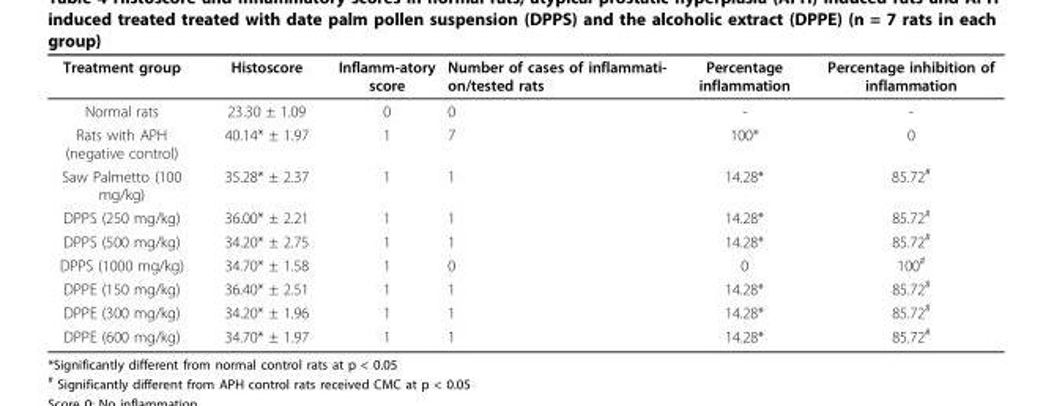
<table><thead><tr><td>Treatment group</td><td>Histoscore</td><td>Inflamm-atory score</td><td>Number of cases of inflammati- on/tested rats</td><td>Percentage inflammation</td><td>Percentage inhibition of inflammation</td></tr></thead><tbody><tr><td>Normal rats</td><td>23.30 ± 1.09</td><td>0</td><td>0</td><td>-</td><td>-</td></tr><tr><td>Rats with APH (negative control)</td><td>40.14* ± 1.97</td><td>1</td><td>7</td><td>100*</td><td>0</td></tr><tr><td>Saw Palmetto (100 mg/kg)</td><td>35.28* ± 2.37</td><td>1</td><td>1</td><td>14.28*</td><td>85.72<sup>#</sup></td></tr><tr><td>DPPS (250 mg/kg)</td><td>36.00* ± 2.21</td><td>1</td><td>1</td><td>14.28*</td><td>85.72<sup>#</sup></td></tr><tr><td>DPPS (500 mg/kg)</td><td>34.20* ± 2.75</td><td>1</td><td>1</td><td>14.28*</td><td>85.72<sup>#</sup></td></tr><tr><td>DPPS (1000 mg/kg)</td><td>34.70* ± 1.58</td><td>1</td><td>0</td><td>0</td><td>100<sup>#</sup></td></tr><tr><td>DPPE (150 mg/kg)</td><td>36.40* ± 2.51</td><td>1</td><td>1</td><td>14.28*</td><td>85.72<sup>#</sup></td></tr><tr><td>DPPE (300 mg/kg)</td><td>34.20* ± 1.96</td><td>1</td><td>1</td><td>14.28*</td><td>85.72<sup>#</sup></td></tr><tr><td>DPPE (600 mg/kg)</td><td>34.70* ± 1.97</td><td>1</td><td>1</td><td>14.28*</td><td>85.72<sup>#</sup></td></tr></tbody></table>